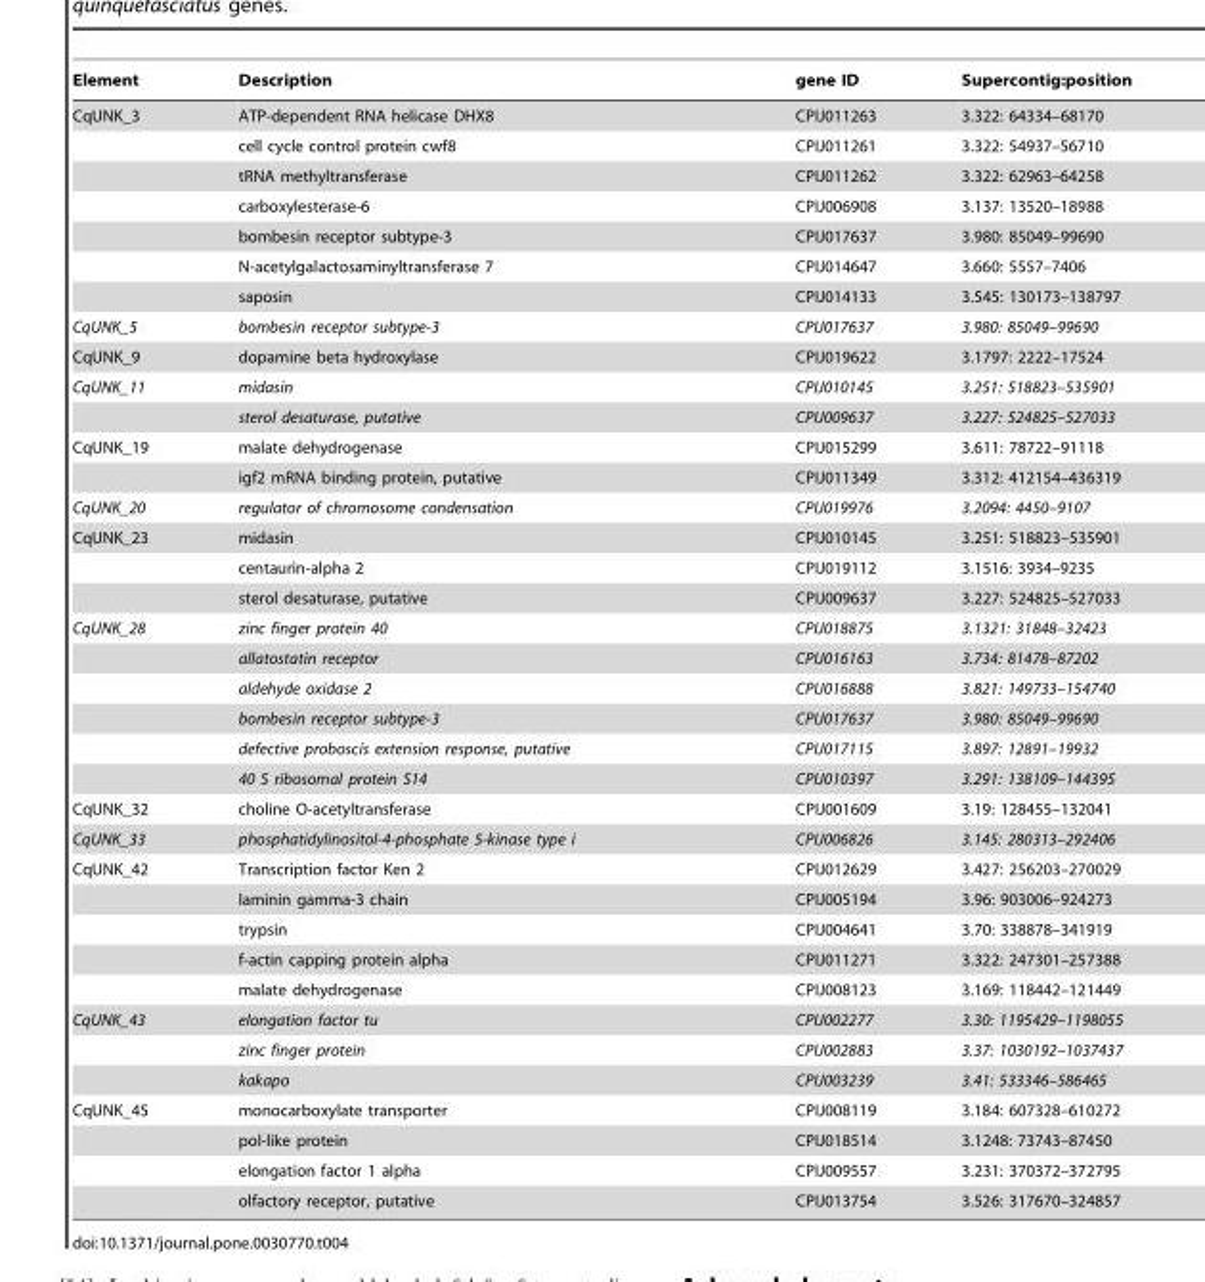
<table><thead><tr><td>Element</td><td>Description</td><td>gene ID</td><td>Supercontig:position</td></tr></thead><tbody><tr><td rowspan="7">CqUNK_3</td><td>ATP-dependent RNA helicase DHX8</td><td>CPIJ011263</td><td>3.322: 64334–68170</td></tr><tr><td>cell cycle control protein cwf8</td><td>CPIJ011261</td><td>3.322: 54937–56710</td></tr><tr><td>tRNA methyltransferase</td><td>CPIJ011262</td><td>3.322: 62963–64258</td></tr><tr><td>carboxylesterase-6</td><td>CPIJ006908</td><td>3.137: 13520–18988</td></tr><tr><td>bombesin receptor subtype-3</td><td>CPIJ017637</td><td>3.980: 85049–99690</td></tr><tr><td>N-acetylgalactosaminyltransferase 7</td><td>CPIJ014647</td><td>3.660: 5557–7406</td></tr><tr><td>saposin</td><td>CPIJ014133</td><td>3.545: 130173–138797</td></tr><tr><td>CqUNK_5</td><td>bombesin receptor subtype-3</td><td>CPIJ017637</td><td>3.980: 85049–99690</td></tr><tr><td>CqUNK_9</td><td>dopamine beta hydroxylase</td><td>CPIJ019622</td><td>3.1797: 2222–17524</td></tr><tr><td rowspan="2">CqUNK_11</td><td>midasin</td><td>CPIJ010145</td><td>3.251: 518823–535901</td></tr><tr><td>sterol desaturase, putative</td><td>CPIJ009637</td><td>3.227: 524825–527033</td></tr><tr><td rowspan="2">CqUNK_19</td><td>malate dehydrogenase</td><td>CPIJ015299</td><td>3.611: 78722–91118</td></tr><tr><td>igf2 mRNA binding protein, putative</td><td>CPIJ011349</td><td>3.312: 412154–436319</td></tr><tr><td>CqUNK_20</td><td>regulator of chromosome condensation</td><td>CPIJ019976</td><td>3.2094: 4450–9107</td></tr><tr><td rowspan="3">CqUNK_23</td><td>midasin</td><td>CPIJ010145</td><td>3.251: 518823–535901</td></tr><tr><td>centaurin-alpha 2</td><td>CPIJ019112</td><td>3.1516: 3934–9235</td></tr><tr><td>sterol desaturase, putative</td><td>CPIJ009637</td><td>3.227: 524825–527033</td></tr><tr><td rowspan="6">CqUNK_28</td><td>zinc finger protein 40</td><td>CPIJ018875</td><td>3.1321: 31848–32423</td></tr><tr><td>allatostatin receptor</td><td>CPIJ016163</td><td>3.734: 81478–87202</td></tr><tr><td>aldehyde oxidase 2</td><td>CPIJ016888</td><td>3.821: 149733–154740</td></tr><tr><td>bombesin receptor subtype-3</td><td>CPIJ017637</td><td>3.980: 85049–99690</td></tr><tr><td>defective proboscis extension response, putative</td><td>CPIJ017115</td><td>3.897: 12891–19932</td></tr><tr><td>40 S ribosomal protein S14</td><td>CPIJ010397</td><td>3.291: 138109–144395</td></tr><tr><td>CqUNK_32</td><td>choline O-acetyltransferase</td><td>CPIJ001609</td><td>3.19: 128455–132041</td></tr><tr><td>CqUNK_33</td><td>phosphatidylinositol-4-phosphate 5-kinase type i</td><td>CPIJ006826</td><td>3.145: 280313–292406</td></tr><tr><td rowspan="5">CqUNK_42</td><td>Transcription factor Ken 2</td><td>CPIJ012629</td><td>3.427: 256203–270029</td></tr><tr><td>laminin gamma-3 chain</td><td>CPIJ005194</td><td>3.96: 903006–924273</td></tr><tr><td>trypsin</td><td>CPIJ004641</td><td>3.70: 338878–341919</td></tr><tr><td>f-actin capping protein alpha</td><td>CPIJ011271</td><td>3.322: 247301–257388</td></tr><tr><td>malate dehydrogenase</td><td>CPIJ008123</td><td>3.169: 118442–121449</td></tr><tr><td rowspan="3">CqUNK_43</td><td>elongation factor tu</td><td>CPIJ002277</td><td>3.30: 1195429–1198055</td></tr><tr><td>zinc finger protein</td><td>CPIJ002883</td><td>3.37: 1030192–1037437</td></tr><tr><td>kakapo</td><td>CPIJ003239</td><td>3.41: 533346–586465</td></tr><tr><td rowspan="4">CqUNK_45</td><td>monocarboxylate transporter</td><td>CPIJ008119</td><td>3.184: 607328–610272</td></tr><tr><td>pol-like protein</td><td>CPIJ018514</td><td>3.1248: 73743–87450</td></tr><tr><td>elongation factor 1 alpha</td><td>CPIJ009557</td><td>3.231: 370372–372795</td></tr><tr><td>olfactory receptor, putative</td><td>CPIJ013754</td><td>3.526: 317670–324857</td></tr></tbody></table>